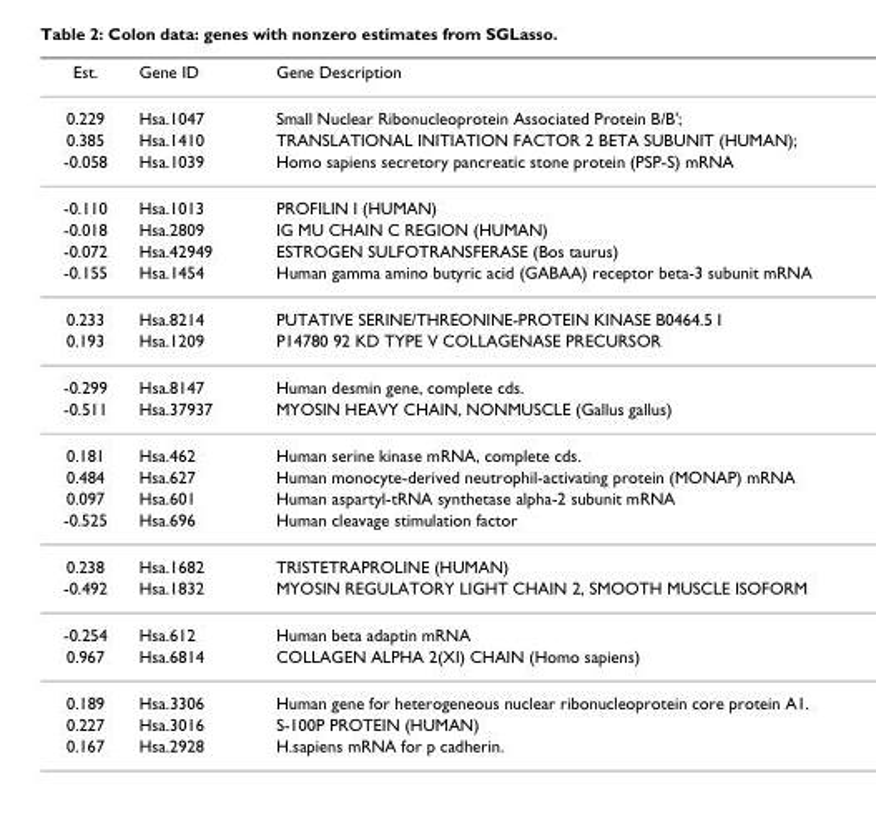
<table><thead><tr><td>Est.</td><td>Gene ID</td><td>Gene Description</td></tr></thead><tbody><tr><td>0.229</td><td>Hsa.1047</td><td>Small Nuclear Ribonucleoprotein Associated Protein B/B&#x27;;</td></tr><tr><td>0.385</td><td>Hsa.1410</td><td>TRANSLATIONAL INITIATION FACTOR 2 BETA SUBUNIT (HUMAN);</td></tr><tr><td>-0.058</td><td>Hsa.1039</td><td>Homo sapiens secretory pancreatic stone protein (PSP-S) mRNA</td></tr><tr><td>-0.110</td><td>Hsa.1013</td><td>PROFILIN I (HUMAN)</td></tr><tr><td>-0.018</td><td>Hsa.2809</td><td>IG MU CHAIN C REGION (HUMAN)</td></tr><tr><td>-0.072</td><td>Hsa.42949</td><td>ESTROGEN SULFOTRANSFERASE (Bos taurus)</td></tr><tr><td>-0.155</td><td>Hsa.1454</td><td>Human gamma amino butyric acid (GABAA) receptor beta-3 subunit mRNA</td></tr><tr><td>0.233</td><td>Hsa.8214</td><td>PUTATIVE SERINE/THREONINE-PROTEIN KINASE B0464.5 I</td></tr><tr><td>0.193</td><td>Hsa.1209</td><td>P14780 92 KD TYPE V COLLAGENASE PRECURSOR</td></tr><tr><td>-0.299</td><td>Hsa.8147</td><td>Human desmin gene, complete cds.</td></tr><tr><td>-0.511</td><td>Hsa.37937</td><td>MYOSIN HEAVY CHAIN, NONMUSCLE (Gallus gallus)</td></tr><tr><td>0.181</td><td>Hsa.462</td><td>Human serine kinase mRNA, complete cds.</td></tr><tr><td>0.484</td><td>Hsa.627</td><td>Human monocyte-derived neutrophil-activating protein (MONAP) mRNA</td></tr><tr><td>0.097</td><td>Hsa.601</td><td>Human aspartyl-tRNA synthetase alpha-2 subunit mRNA</td></tr><tr><td>-0.525</td><td>Hsa.696</td><td>Human cleavage stimulation factor</td></tr><tr><td>0.238</td><td>Hsa.1682</td><td>TRISTETRAPROLINE (HUMAN)</td></tr><tr><td>-0.492</td><td>Hsa.1832</td><td>MYOSIN REGULATORY LIGHT CHAIN 2, SMOOTH MUSCLE ISOFORM</td></tr><tr><td>-0.254</td><td>Hsa.612</td><td>Human beta adaptin mRNA</td></tr><tr><td>0.967</td><td>Hsa.6814</td><td>COLLAGEN ALPHA 2(XI) CHAIN (Homo sapiens)</td></tr><tr><td>0.189</td><td>Hsa.3306</td><td>Human gene for heterogeneous nuclear ribonucleoprotein core protein A1.</td></tr><tr><td>0.227</td><td>Hsa.3016</td><td>S-100P PROTEIN (HUMAN)</td></tr><tr><td>0.167</td><td>Hsa.2928</td><td>H.sapiens mRNA for p cadherin.</td></tr></tbody></table>